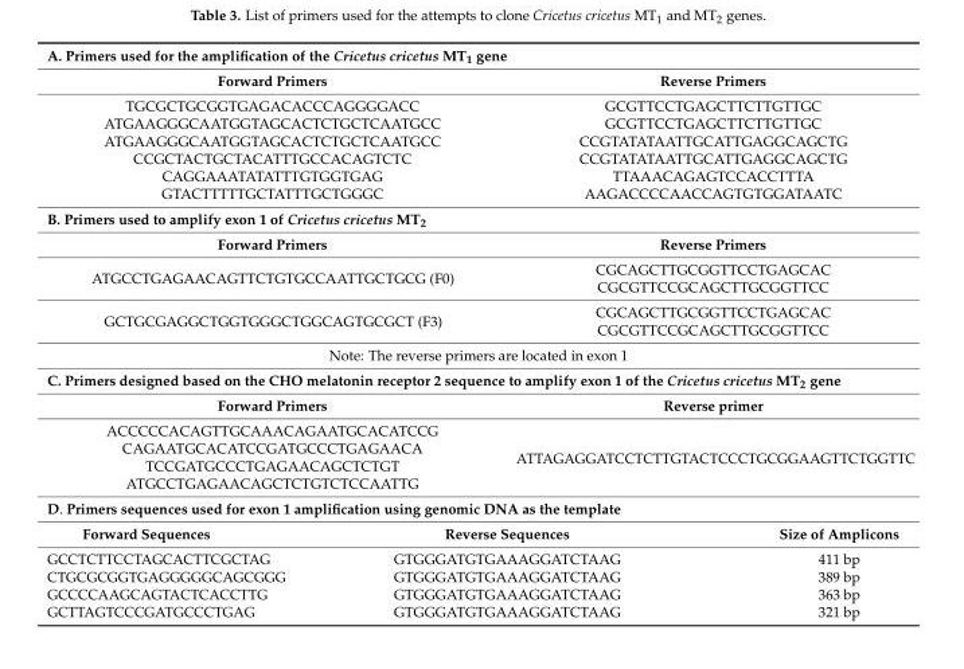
<table><tbody><tr><td colspan="4">A. Primers used for the amplification of the Cricetus cricetus MT<sub>1</sub> gene</td></tr><tr><td colspan="2">Forward Primers</td><td colspan="2">Reverse Primers</td></tr><tr><td colspan="2">TGCGCTGCGGTGAGACACCCAGGGGACC</td><td colspan="2">GCGTTCCTGAGCTTCTTGTTGC</td></tr><tr><td colspan="2">ATGAAGGGCAATGGTAGCACTCTGCTCAATGCC</td><td colspan="2">GCGTTCCTGAGCTTCTTGTTGC</td></tr><tr><td colspan="2">ATGAAGGGCAATGGTAGCACTCTGCTCAATGCC</td><td colspan="2">CCGTATATAATTGCATTGAGGCAGCTG</td></tr><tr><td colspan="2">CCGCTACTGCTACATTTGCCACAGTCTC</td><td colspan="2">CCGTATATAATTGCATTGAGGCAGCTG</td></tr><tr><td colspan="2">CAGGAAATATATTTGTGGTGAG</td><td colspan="2">TTAAACAGAGTCCACCTTTA</td></tr><tr><td colspan="2">GTACTTTTTGCTATTTGCTGGGC</td><td colspan="2">AAGACCCCAACCAGTGTGGATAATC</td></tr><tr><td colspan="4">B. Primers used to amplify exon 1 of Cricetus cricetus MT<sub>2</sub></td></tr><tr><td colspan="2">Forward Primers</td><td colspan="2">Reverse Primers</td></tr><tr><td rowspan="2" colspan="2">ATGCCTGAGAACAGTTCTGTGCCAATTGCTGCG (F0)</td><td colspan="2">CGCAGCTTGCGGTTCCTGAGCAC</td></tr><tr><td colspan="2">CGCGTTCCGCAGCTTGCGGTTCC</td></tr><tr><td rowspan="2" colspan="2">GCTGCGAGGCTGGTGGGCTGGCAGTGCGCT (F3)</td><td colspan="2">CGCAGCTTGCGGTTCCTGAGCAC</td></tr><tr><td colspan="2">CGCGTTCCGCAGCTTGCGGTTCC</td></tr><tr><td colspan="4">Note: The reverse primers are located in exon 1</td></tr><tr><td colspan="4">C. Primers designed based on the CHO melatonin receptor 2 sequence to amplify exon 1 of the Cricetus cricetus MT<sub>2</sub> gene</td></tr><tr><td colspan="2">Forward Primers</td><td colspan="2">Reverse primer</td></tr><tr><td colspan="2">ACCCCCACAGTTGCAAACAGAATGCACATCCG</td><td rowspan="4" colspan="2">ATTAGAGGATCCTCTTGTACTCCCTGCGGAAGTTCTGGTTC</td></tr><tr><td colspan="2">CAGAATGCACATCCGATGCCCTGAGAACA</td></tr><tr><td colspan="2">TCCGATGCCCTGAGAACAGCTCTGT</td></tr><tr><td colspan="2">ATGCCTGAGAACAGCTCTGTCTCCAATTG</td></tr><tr><td colspan="4">D. Primers sequences used for exon 1 amplification using genomic DNA as the template</td></tr><tr><td>Forward Sequences</td><td colspan="2">Reverse Sequences</td><td>Size of Amplicons</td></tr><tr><td>GCCTCTTCCTAGCACTTCGCTAG</td><td colspan="2">GTGGGATGTGAAAGGATCTAAG</td><td>411 bp</td></tr><tr><td>CTGCGCGGTGAGGGGGCAGCGGG</td><td colspan="2">GTGGGATGTGAAAGGATCTAAG</td><td>389 bp</td></tr><tr><td>GCCCCAAGCAGTACTCACCTTG</td><td colspan="2">GTGGGATGTGAAAGGATCTAAG</td><td>363 bp</td></tr><tr><td>GCTTAGTCCCGATGCCCTGAG</td><td colspan="2">GTGGGATGTGAAAGGATCTAAG</td><td>321 bp</td></tr></tbody></table>